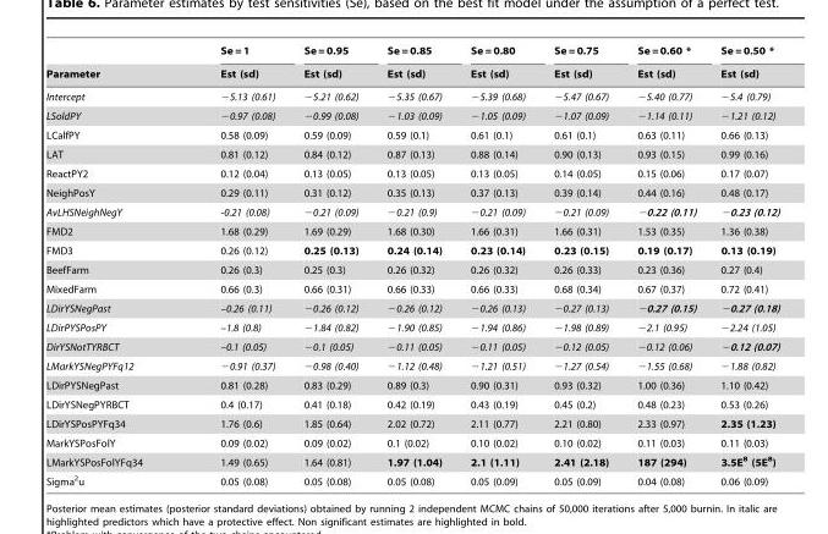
<table><thead><tr><td rowspan="2">Parameter</td><td rowspan="2">Se = 1 Est (sd)</td><td rowspan="2">Se = 0.95 Est (sd)</td><td rowspan="2">Se = 0.85 Est (sd)</td><td rowspan="2">Se = 0.80 Est (sd)</td><td rowspan="2">Se = 0.75 Est (sd)</td><td rowspan="2">Se = 0.60 * Est (sd)</td><td rowspan="2">Se = 0.50 * Est (sd)</td></tr><tr></tr></thead><tbody><tr><td>Intercept</td><td>−5.13 (0.61)</td><td>−5.21 (0.62)</td><td>−5.35 (0.67)</td><td>−5.39 (0.68)</td><td>−5.47 (0.67)</td><td>−5.40 (0.77)</td><td>−5.4 (0.79)</td></tr><tr><td>LSoldPY</td><td>−0.97 (0.08)</td><td>−0.99 (0.08)</td><td>−1.03 (0.09)</td><td>−1.05 (0.09)</td><td>−1.07 (0.09)</td><td>−1.14 (0.11)</td><td>−1.21 (0.12)</td></tr><tr><td>LCalfPY</td><td>0.58 (0.09)</td><td>0.59 (0.09)</td><td>0.59 (0.1)</td><td>0.61 (0.1)</td><td>0.61 (0.1)</td><td>0.63 (0.11)</td><td>0.66 (0.13)</td></tr><tr><td>LAT</td><td>0.81 (0.12)</td><td>0.84 (0.12)</td><td>0.87 (0.13)</td><td>0.88 (0.14)</td><td>0.90 (0.13)</td><td>0.93 (0.15)</td><td>0.99 (0.16)</td></tr><tr><td>ReactPY2</td><td>0.12 (0.04)</td><td>0.13 (0.05)</td><td>0.13 (0.05)</td><td>0.13 (0.05)</td><td>0.14 (0.05)</td><td>0.15 (0.06)</td><td>0.17 (0.07)</td></tr><tr><td>NeighPosY</td><td>0.29 (0.11)</td><td>0.31 (0.12)</td><td>0.35 (0.13)</td><td>0.37 (0.13)</td><td>0.39 (0.14)</td><td>0.44 (0.16)</td><td>0.48 (0.17)</td></tr><tr><td>AvLHSNeighNegY</td><td>-0.21 (0.08)</td><td>−0.21 (0.09)</td><td>−0.21 (0.9)</td><td>−0.21 (0.09)</td><td>−0.21 (0.09)</td><td>−0.22 (0.11)</td><td>−0.23 (0.12)</td></tr><tr><td>FMD2</td><td>1.68 (0.29)</td><td>1.69 (0.29)</td><td>1.68 (0.30)</td><td>1.66 (0.31)</td><td>1.66 (0.31)</td><td>1.53 (0.35)</td><td>1.36 (0.38)</td></tr><tr><td>FMD3</td><td>0.26 (0.12)</td><td>0.25 (0.13)</td><td>0.24 (0.14)</td><td>0.23 (0.14)</td><td>0.23 (0.15)</td><td>0.19 (0.17)</td><td>0.13 (0.19)</td></tr><tr><td>BeefFarm</td><td>0.26 (0.3)</td><td>0.25 (0.3)</td><td>0.26 (0.32)</td><td>0.26 (0.32)</td><td>0.26 (0.33)</td><td>0.23 (0.36)</td><td>0.27 (0.4)</td></tr><tr><td>MixedFarm</td><td>0.66 (0.3)</td><td>0.66 (0.31)</td><td>0.66 (0.33)</td><td>0.66 (0.33)</td><td>0.68 (0.34)</td><td>0.67 (0.37)</td><td>0.72 (0.41)</td></tr><tr><td>LDirYSNegPast</td><td>–0.26 (0.11)</td><td>−0.26 (0.12)</td><td>−0.26 (0.12)</td><td>−0.26 (0.13)</td><td>−0.27 (0.13)</td><td>−0.27 (0.15)</td><td>−0.27 (0.18)</td></tr><tr><td>LDirPYSPosPY</td><td>–1.8 (0.8)</td><td>−1.84 (0.82)</td><td>−1.90 (0.85)</td><td>−1.94 (0.86)</td><td>−1.98 (0.89)</td><td>−2.1 (0.95)</td><td>−2.24 (1.05)</td></tr><tr><td>DirYSNotTYRBCT</td><td>–0.1 (0.05)</td><td>−0.1 (0.05)</td><td>−0.11 (0.05)</td><td>−0.11 (0.05)</td><td>−0.12 (0.05)</td><td>−0.12 (0.06)</td><td>−0.12 (0.07)</td></tr><tr><td>LMarkYSNegPYFq12</td><td>−0.91 (0.37)</td><td>−0.98 (0.40)</td><td>−1.12 (0.48)</td><td>−1.21 (0.51)</td><td>−1.27 (0.54)</td><td>−1.55 (0.68)</td><td>−1.88 (0.82)</td></tr><tr><td>LDirPYSNegPast</td><td>0.81 (0.28)</td><td>0.83 (0.29)</td><td>0.89 (0.3)</td><td>0.90 (0.31)</td><td>0.93 (0.32)</td><td>1.00 (0.36)</td><td>1.10 (0.42)</td></tr><tr><td>LDirYSNegPYRBCT</td><td>0.4 (0.17)</td><td>0.41 (0.18)</td><td>0.42 (0.19)</td><td>0.43 (0.19)</td><td>0.45 (0.2)</td><td>0.48 (0.23)</td><td>0.53 (0.26)</td></tr><tr><td>LDirYSPosPYFq34</td><td>1.76 (0.6)</td><td>1.85 (0.64)</td><td>2.02 (0.72)</td><td>2.11 (0.77)</td><td>2.21 (0.80)</td><td>2.33 (0.97)</td><td>2.35 (1.23)</td></tr><tr><td>MarkYSPosFolY</td><td>0.09 (0.02)</td><td>0.09 (0.02)</td><td>0.1 (0.02)</td><td>0.10 (0.02)</td><td>0.10 (0.02)</td><td>0.11 (0.03)</td><td>0.11 (0.03)</td></tr><tr><td>LMarkYSPosFolYFq34</td><td>1.49 (0.65)</td><td>1.64 (0.81)</td><td>1.97 (1.04)</td><td>2.1 (1.11)</td><td>2.41 (2.18)</td><td>187 (294)</td><td>3.5E<sup>8</sup> (5E<sup>8</sup>)</td></tr><tr><td>Sigma<sup>2</sup>u</td><td>0.05 (0.08)</td><td>0.05 (0.08)</td><td>0.05 (0.08)</td><td>0.05 (0.09)</td><td>0.05 (0.09)</td><td>0.04 (0.08)</td><td>0.06 (0.09)</td></tr></tbody></table>